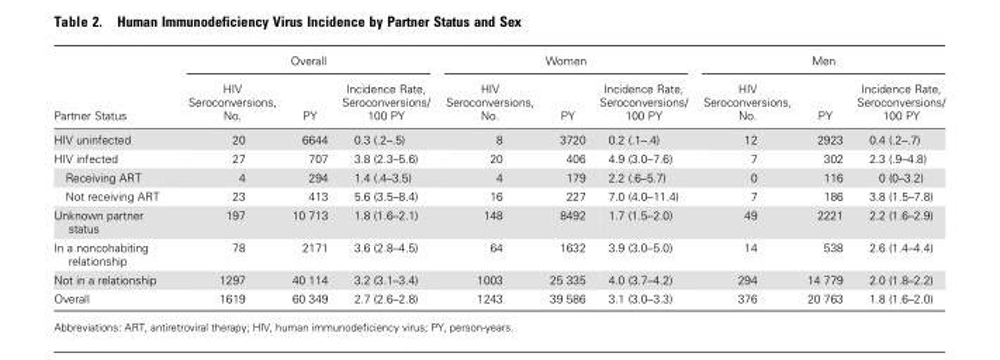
<table><thead><tr><td rowspan="2">Partner Status</td><td colspan="3">Overall</td><td colspan="3">Women</td><td colspan="3">Men</td></tr><tr><td>HIV Seroconversions, No.</td><td>PY</td><td>Incidence Rate, Seroconversions/ 100 PY</td><td>HIV Seroconversions, No.</td><td>PY</td><td>Incidence Rate, Seroconversions/ 100 PY</td><td>HIV Seroconversions, No.</td><td>PY</td><td>Incidence Rate, Seroconversions/ 100 PY</td></tr></thead><tbody><tr><td>HIV uninfected</td><td>20</td><td>6644</td><td>0.3 (.2–.5)</td><td>8</td><td>3720</td><td>0.2 (.1–.4)</td><td>12</td><td>2923</td><td>0.4 (.2–.7)</td></tr><tr><td>HIV infected</td><td>27</td><td>707</td><td>3.8 (2.3–5.6)</td><td>20</td><td>406</td><td>4.9 (3.0–7.6)</td><td>7</td><td>302</td><td>2.3 (.9–4.8)</td></tr><tr><td>Receiving ART</td><td>4</td><td>294</td><td>1.4 (.4–3.5)</td><td>4</td><td>179</td><td>2.2 (.6–5.7)</td><td>0</td><td>116</td><td>0 (0–3.2)</td></tr><tr><td>Not receiving ART</td><td>23</td><td>413</td><td>5.6 (3.5–8.4)</td><td>16</td><td>227</td><td>7.0 (4.0–11.4)</td><td>7</td><td>186</td><td>3.8 (1.5–7.8)</td></tr><tr><td>Unknown partner status</td><td>197</td><td>10 713</td><td>1.8 (1.6–2.1)</td><td>148</td><td>8492</td><td>1.7 (1.5–2.0)</td><td>49</td><td>2221</td><td>2.2 (1.6–2.9)</td></tr><tr><td>In a noncohabiting relationship</td><td>78</td><td>2171</td><td>3.6 (2.8–4.5)</td><td>64</td><td>1632</td><td>3.9 (3.0–5.0)</td><td>14</td><td>538</td><td>2.6 (1.4–4.4)</td></tr><tr><td>Not in a relationship</td><td>1297</td><td>40 114</td><td>3.2 (3.1–3.4)</td><td>1003</td><td>25 335</td><td>4.0 (3.7–4.2)</td><td>294</td><td>14 779</td><td>2.0 (1.8–2.2)</td></tr><tr><td>Overall</td><td>1619</td><td>60 349</td><td>2.7 (2.6–2.8)</td><td>1243</td><td>39 586</td><td>3.1 (3.0–3.3)</td><td>376</td><td>20 763</td><td>1.8 (1.6–2.0)</td></tr></tbody></table>